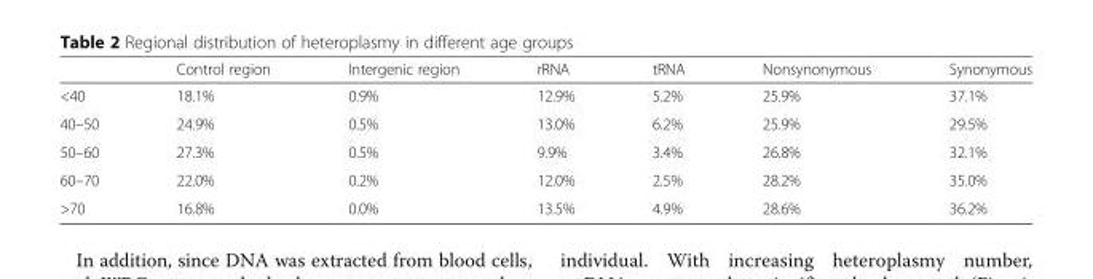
<table><thead><tr><td></td><td>Control region</td><td>Intergenic region</td><td>rRNA</td><td>tRNA</td><td>Nonsynonymous</td><td>Synonymous</td></tr></thead><tbody><tr><td>&lt;40</td><td>18.1%</td><td>0.9%</td><td>12.9%</td><td>5.2%</td><td>25.9%</td><td>37.1%</td></tr><tr><td>40–50</td><td>24.9%</td><td>0.5%</td><td>13.0%</td><td>6.2%</td><td>25.9%</td><td>29.5%</td></tr><tr><td>50–60</td><td>27.3%</td><td>0.5%</td><td>9.9%</td><td>3.4%</td><td>26.8%</td><td>32.1%</td></tr><tr><td>60–70</td><td>22.0%</td><td>0.2%</td><td>12.0%</td><td>2.5%</td><td>28.2%</td><td>35.0%</td></tr><tr><td>&gt;70</td><td>16.8%</td><td>0.0%</td><td>13.5%</td><td>4.9%</td><td>28.6%</td><td>36.2%</td></tr></tbody></table>